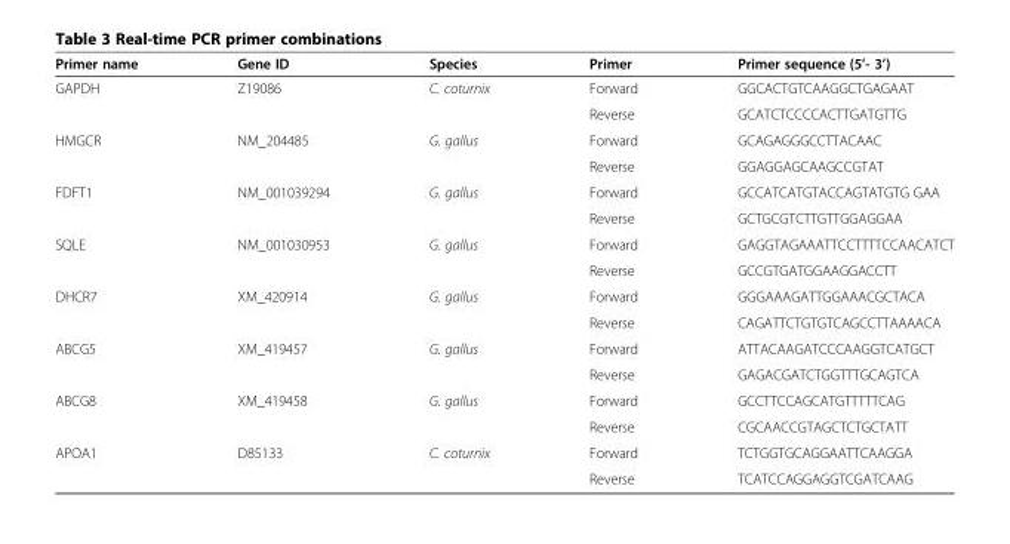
<table><thead><tr><td>Primer name</td><td>Gene ID</td><td>Species</td><td>Primer</td><td>Primer sequence (5’- 3’)</td></tr></thead><tbody><tr><td rowspan="2">GAPDH</td><td rowspan="2">Z19086</td><td rowspan="2">C. coturnix</td><td>Forward</td><td>GGCACTGTCAAGGCTGAGAAT</td></tr><tr><td>Reverse</td><td>GCATCTCCCCACTTGATGTTG</td></tr><tr><td rowspan="2">HMGCR</td><td rowspan="2">NM_204485</td><td rowspan="2">G. gallus</td><td>Forward</td><td>GCAGAGGGCCTTACAAC</td></tr><tr><td>Reverse</td><td>GGAGGAGCAAGCCGTAT</td></tr><tr><td rowspan="2">FDFT1</td><td rowspan="2">NM_001039294</td><td rowspan="2">G. gallus</td><td>Forward</td><td>GCCATCATGTACCAGTATGTG GAA</td></tr><tr><td>Reverse</td><td>GCTGCGTCTTGTTGGAGGAA</td></tr><tr><td rowspan="2">SQLE</td><td rowspan="2">NM_001030953</td><td rowspan="2">G. gallus</td><td>Forward</td><td>GAGGTAGAAATTCCTTTTCCAACATCT</td></tr><tr><td>Reverse</td><td>GCCGTGATGGAAGGACCTT</td></tr><tr><td rowspan="2">DHCR7</td><td rowspan="2">XM_420914</td><td rowspan="2">G. gallus</td><td>Forward</td><td>GGGAAAGATTGGAAACGCTACA</td></tr><tr><td>Reverse</td><td>CAGATTCTGTGTCAGCCTTAAAACA</td></tr><tr><td rowspan="2">ABCG5</td><td rowspan="2">XM_419457</td><td rowspan="2">G. gallus</td><td>Forward</td><td>ATTACAAGATCCCAAGGTCATGCT</td></tr><tr><td>Reverse</td><td>GAGACGATCTGGTTTGCAGTCA</td></tr><tr><td rowspan="2">ABCG8</td><td rowspan="2">XM_419458</td><td rowspan="2">G. gallus</td><td>Forward</td><td>GCCTTCCAGCATGTTTTTCAG</td></tr><tr><td>Reverse</td><td>CGCAACCGTAGCTCTGCTATT</td></tr><tr><td rowspan="2">APOA1</td><td>D85133</td><td>C. coturnix</td><td>Forward</td><td>TCTGGTGCAGGAATTCAAGGA</td></tr><tr><td></td><td></td><td>Reverse</td><td>TCATCCAGGAGGTCGATCAAG</td></tr></tbody></table>